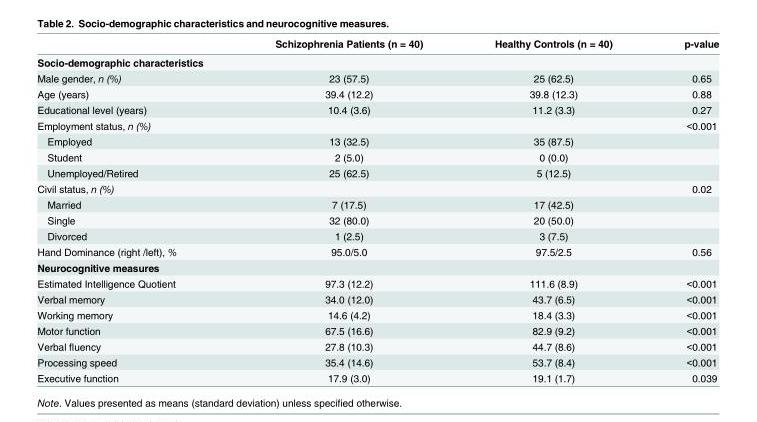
<table><thead><tr><td></td><td>Schizophrenia Patients (n = 40)</td><td>Healthy Controls (n = 40)</td><td>p-value</td></tr></thead><tbody><tr><td colspan="4">Socio-demographic characteristics</td></tr><tr><td>Male gender, n (%)</td><td>23 (57.5)</td><td>25 (62.5)</td><td>0.65</td></tr><tr><td>Age (years)</td><td>39.4 (12.2)</td><td>39.8 (12.3)</td><td>0.88</td></tr><tr><td>Educational level (years)</td><td>10.4 (3.6)</td><td>11.2 (3.3)</td><td>0.27</td></tr><tr><td>Employment status, n (%)</td><td></td><td></td><td>&lt;0.001</td></tr><tr><td>Employed</td><td>13 (32.5)</td><td>35 (87.5)</td><td></td></tr><tr><td>Student</td><td>2 (5.0)</td><td>0 (0.0)</td><td></td></tr><tr><td>Unemployed/Retired</td><td>25 (62.5)</td><td>5 (12.5)</td><td></td></tr><tr><td>Civil status, n (%)</td><td></td><td></td><td>0.02</td></tr><tr><td>Married</td><td>7 (17.5)</td><td>17 (42.5)</td><td></td></tr><tr><td>Single</td><td>32 (80.0)</td><td>20 (50.0)</td><td></td></tr><tr><td>Divorced</td><td>1 (2.5)</td><td>3 (7.5)</td><td></td></tr><tr><td>Hand Dominance (right /left), %</td><td>95.0/5.0</td><td>97.5/2.5</td><td>0.56</td></tr><tr><td colspan="4">Neurocognitive measures</td></tr><tr><td>Estimated Intelligence Quotient</td><td>97.3 (12.2)</td><td>111.6 (8.9)</td><td>&lt;0.001</td></tr><tr><td>Verbal memory</td><td>34.0 (12.0)</td><td>43.7 (6.5)</td><td>&lt;0.001</td></tr><tr><td>Working memory</td><td>14.6 (4.2)</td><td>18.4 (3.3)</td><td>&lt;0.001</td></tr><tr><td>Motor function</td><td>67.5 (16.6)</td><td>82.9 (9.2)</td><td>&lt;0.001</td></tr><tr><td>Verbal fluency</td><td>27.8 (10.3)</td><td>44.7 (8.6)</td><td>&lt;0.001</td></tr><tr><td>Processing speed</td><td>35.4 (14.6)</td><td>53.7 (8.4)</td><td>&lt;0.001</td></tr><tr><td>Executive function</td><td>17.9 (3.0)</td><td>19.1 (1.7)</td><td>0.039</td></tr></tbody></table>